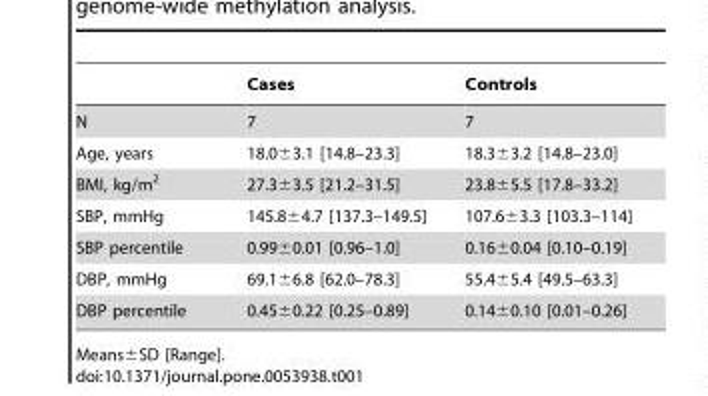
<table><thead><tr><td></td><td>Cases</td><td>Controls</td></tr></thead><tbody><tr><td>N</td><td>7</td><td>7</td></tr><tr><td>Age, years</td><td>18.0±3.1 [14.8–23.3]</td><td>18.3±3.2 [14.8–23.0]</td></tr><tr><td>BMI, kg/m<sup>2</sup></td><td>27.3±3.5 [21.2–31.5]</td><td>23.8±5.5 [17.8–33.2]</td></tr><tr><td>SBP, mmHg</td><td>145.8±4.7 [137.3–149.5]</td><td>107.6±3.3 [103.3–114]</td></tr><tr><td>SBP percentile</td><td>0.99±0.01 [0.96–1.0]</td><td>0.16±0.04 [0.10–0.19]</td></tr><tr><td>DBP, mmHg</td><td>69.1±6.8 [62.0–78.3]</td><td>55.4±5.4 [49.5–63.3]</td></tr><tr><td>DBP percentile</td><td>0.45±0.22 [0.25–0.89]</td><td>0.14±0.10 [0.01–0.26]</td></tr></tbody></table>